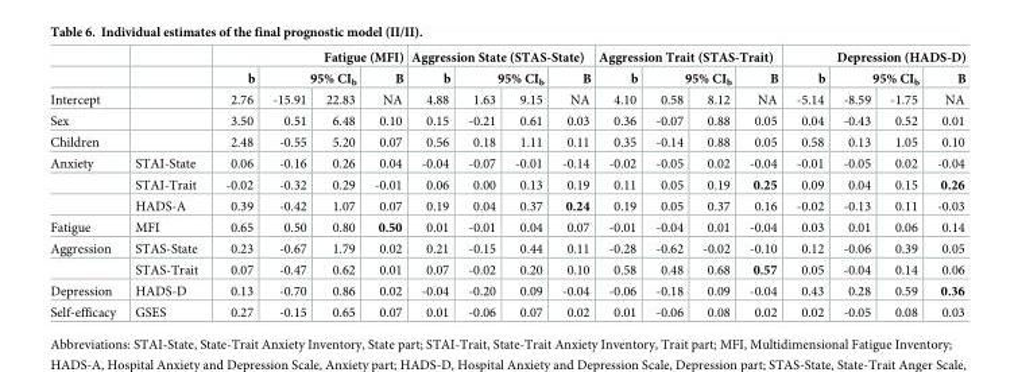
<table><thead><tr><td rowspan="3">Intercept</td><td rowspan="3"></td><td colspan="4">Fatigue (MFI)</td><td colspan="4">Aggression State (STAS-State)</td><td colspan="4">Aggression Trait (STAS-Trait)</td><td colspan="4">Depression (HADS-D)</td></tr><tr><td rowspan="2">b 2.76</td><td colspan="2">95% CI<sub>b</sub></td><td rowspan="2">B NA</td><td rowspan="2">b 4.88</td><td colspan="2">95% CI<sub>b</sub></td><td rowspan="2">B NA</td><td rowspan="2">b 4.10</td><td colspan="2">95% CI<sub>b</sub></td><td rowspan="2">B NA</td><td rowspan="2">b -5.14</td><td colspan="2">95% CI<sub>b</sub></td><td rowspan="2">B NA</td></tr><tr><td>-15.91</td><td>22.83</td><td>1.63</td><td>9.15</td><td>0.58</td><td>8.12</td><td>-8.59</td><td>-1.75</td></tr></thead><tbody><tr><td>Sex</td><td></td><td>3.50</td><td>0.51</td><td>6.48</td><td>0.10</td><td>0.15</td><td>-0.21</td><td>0.61</td><td>0.03</td><td>0.36</td><td>-0.07</td><td>0.88</td><td>0.05</td><td>0.04</td><td>-0.43</td><td>0.52</td><td>0.01</td></tr><tr><td>Children</td><td></td><td>2.48</td><td>-0.55</td><td>5.20</td><td>0.07</td><td>0.56</td><td>0.18</td><td>1.11</td><td>0.11</td><td>0.35</td><td>-0.14</td><td>0.88</td><td>0.05</td><td>0.58</td><td>0.13</td><td>1.05</td><td>0.10</td></tr><tr><td rowspan="3">Anxiety</td><td>STAI-State</td><td>0.06</td><td>-0.16</td><td>0.26</td><td>0.04</td><td>-0.04</td><td>-0.07</td><td>-0.01</td><td>-0.14</td><td>-0.02</td><td>-0.05</td><td>0.02</td><td>-0.04</td><td>-0.01</td><td>-0.05</td><td>0.02</td><td>-0.04</td></tr><tr><td>STAI-Trait</td><td>-0.02</td><td>-0.32</td><td>0.29</td><td>-0.01</td><td>0.06</td><td>0.00</td><td>0.13</td><td>0.19</td><td>0.11</td><td>0.05</td><td>0.19</td><td>0.25</td><td>0.09</td><td>0.04</td><td>0.15</td><td>0.26</td></tr><tr><td>HADS-A</td><td>0.39</td><td>-0.42</td><td>1.07</td><td>0.07</td><td>0.19</td><td>0.04</td><td>0.37</td><td>0.24</td><td>0.19</td><td>0.05</td><td>0.37</td><td>0.16</td><td>-0.02</td><td>-0.13</td><td>0.11</td><td>-0.03</td></tr><tr><td>Fatigue</td><td>MFI</td><td>0.65</td><td>0.50</td><td>0.80</td><td>0.50</td><td>0.01</td><td>-0.01</td><td>0.04</td><td>0.07</td><td>-0.01</td><td>-0.04</td><td>0.01</td><td>-0.04</td><td>0.03</td><td>0.01</td><td>0.06</td><td>0.14</td></tr><tr><td rowspan="2">Aggression</td><td>STAS-State</td><td>0.23</td><td>-0.67</td><td>1.79</td><td>0.02</td><td>0.21</td><td>-0.15</td><td>0.44</td><td>0.11</td><td>-0.28</td><td>-0.62</td><td>-0.02</td><td>-0.10</td><td>0.12</td><td>-0.06</td><td>0.39</td><td>0.05</td></tr><tr><td>STAS-Trait</td><td>0.07</td><td>-0.47</td><td>0.62</td><td>0.01</td><td>0.07</td><td>-0.02</td><td>0.20</td><td>0.10</td><td>0.58</td><td>0.48</td><td>0.68</td><td>0.57</td><td>0.05</td><td>-0.04</td><td>0.14</td><td>0.06</td></tr><tr><td>Depression</td><td>HADS-D</td><td>0.13</td><td>-0.70</td><td>0.86</td><td>0.02</td><td>-0.04</td><td>-0.20</td><td>0.09</td><td>-0.04</td><td>-0.06</td><td>-0.18</td><td>0.09</td><td>-0.04</td><td>0.43</td><td>0.28</td><td>0.59</td><td>0.36</td></tr><tr><td>Self-efficacy</td><td>GSES</td><td>0.27</td><td>-0.15</td><td>0.65</td><td>0.07</td><td>0.01</td><td>-0.06</td><td>0.07</td><td>0.02</td><td>0.01</td><td>-0.06</td><td>0.08</td><td>0.02</td><td>0.02</td><td>-0.05</td><td>0.08</td><td>0.03</td></tr></tbody></table>